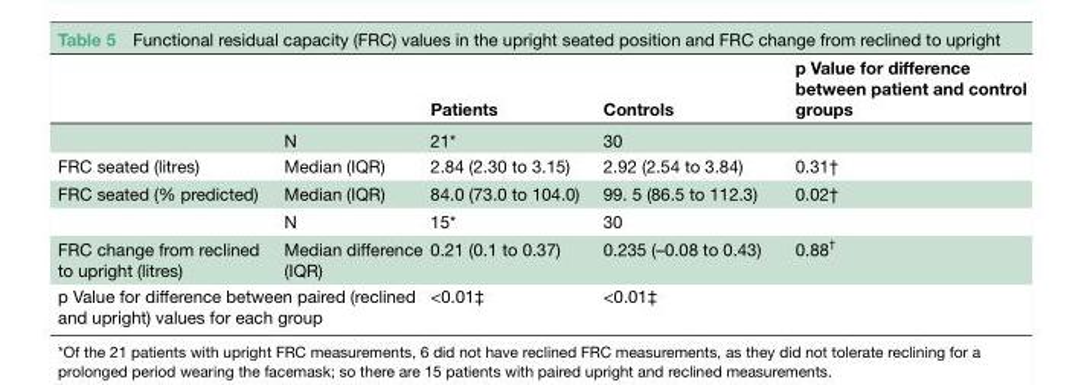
<table><thead><tr><td></td><td></td><td>Patients</td><td>Controls</td><td>p Value for difference between patient and control groups</td></tr></thead><tbody><tr><td></td><td>N</td><td>21*</td><td>30</td><td></td></tr><tr><td>FRC seated (litres)</td><td>Median (IQR)</td><td>2.84 (2.30 to 3.15)</td><td>2.92 (2.54 to 3.84)</td><td>0.31†</td></tr><tr><td rowspan="2">FRC seated (% predicted)</td><td>Median (IQR)</td><td>84.0 (73.0 to 104.0)</td><td>99. 5 (86.5 to 112.3)</td><td>0.02†</td></tr><tr><td>N</td><td>15*</td><td>30</td><td></td></tr><tr><td>FRC change from reclined to upright (litres)</td><td>Median difference (IQR)</td><td>0.21 (0.1 to 0.37)</td><td>0.235 (–0.08 to 0.43)</td><td>0.88<sup>†</sup></td></tr><tr><td colspan="2">p Value for difference between paired (reclined and upright) values for each group</td><td>&lt;0.01‡</td><td>&lt;0.01‡</td><td></td></tr></tbody></table>